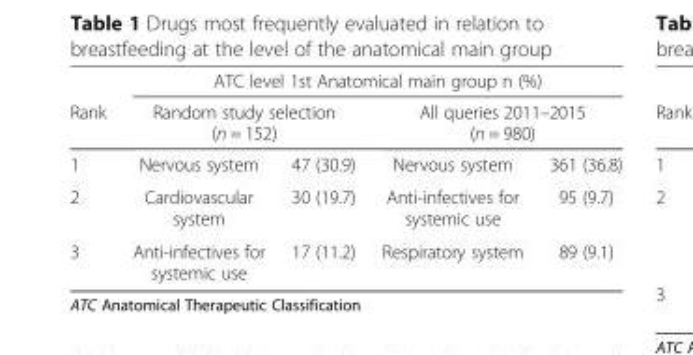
<table><thead><tr><td rowspan="3">Rank 1</td><td colspan="4">ATC level 1st Anatomical main group n (%)</td></tr><tr><td colspan="2">Random study selection (n = 152)</td><td colspan="2">All queries 2011–2015 (n = 980)</td></tr><tr><td>Nervous system</td><td>47 (30.9)</td><td>Nervous system</td><td>361 (36.8)</td></tr></thead><tbody><tr><td>2</td><td>Cardiovascular system</td><td>30 (19.7)</td><td>Anti-infectives for systemic use</td><td>95 (9.7)</td></tr><tr><td>3</td><td>Anti-infectives for systemic use</td><td>17 (11.2)</td><td>Respiratory system</td><td>89 (9.1)</td></tr></tbody></table>